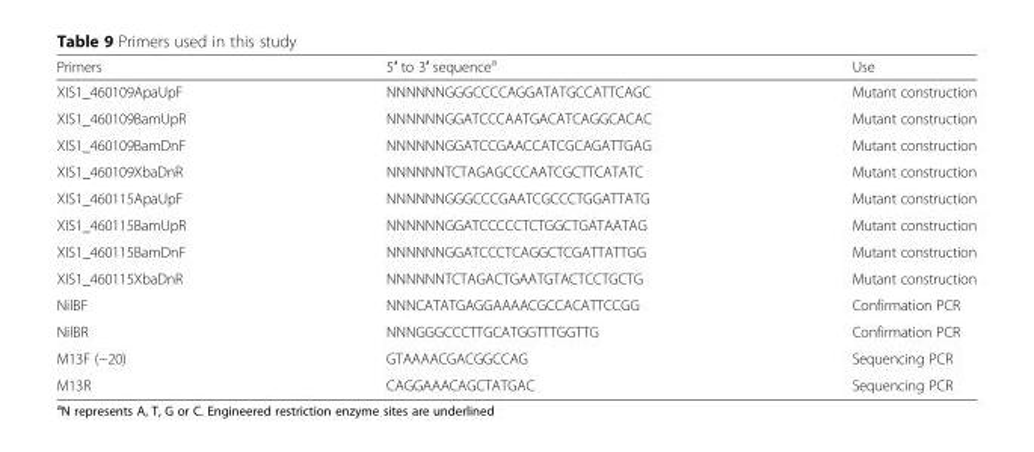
<table><thead><tr><td>Primers</td><td>5′ to 3′ sequence<sup>a</sup></td><td>Use</td></tr></thead><tbody><tr><td>XIS1_460109ApaUpF</td><td>NNNNNNGGGCCCCAGGATATGCCATTCAGC</td><td>Mutant construction</td></tr><tr><td>XIS1_460109BamUpR</td><td>NNNNNNGGATCCCAATGACATCAGGCACAC</td><td>Mutant construction</td></tr><tr><td>XIS1_460109BamDnF</td><td>NNNNNNGGATCCGAACCATCGCAGATTGAG</td><td>Mutant construction</td></tr><tr><td>XIS1_460109XbaDnR</td><td>NNNNNNTCTAGAGCCCAATCGCTTCATATC</td><td>Mutant construction</td></tr><tr><td>XIS1_460115ApaUpF</td><td>NNNNNNGGGCCCGAATCGCCCTGGATTATG</td><td>Mutant construction</td></tr><tr><td>XIS1_460115BamUpR</td><td>NNNNNNGGATCCCCCTCTGGCTGATAATAG</td><td>Mutant construction</td></tr><tr><td>XIS1_460115BamDnF</td><td>NNNNNNGGATCCCTCAGGCTCGATTATTGG</td><td>Mutant construction</td></tr><tr><td>XIS1_460115XbaDnR</td><td>NNNNNNTCTAGACTGAATGTACTCCTGCTG</td><td>Mutant construction</td></tr><tr><td>NilBF</td><td>NNNCATATGAGGAAAACGCCACATTCCGG</td><td>Confirmation PCR</td></tr><tr><td>NilBR</td><td>NNNGGGCCCTTGCATGGTTTGGTTG</td><td>Confirmation PCR</td></tr><tr><td>M13F (−20)</td><td>GTAAAACGACGGCCAG</td><td>Sequencing PCR</td></tr><tr><td>M13R</td><td>CAGGAAACAGCTATGAC</td><td>Sequencing PCR</td></tr></tbody></table>